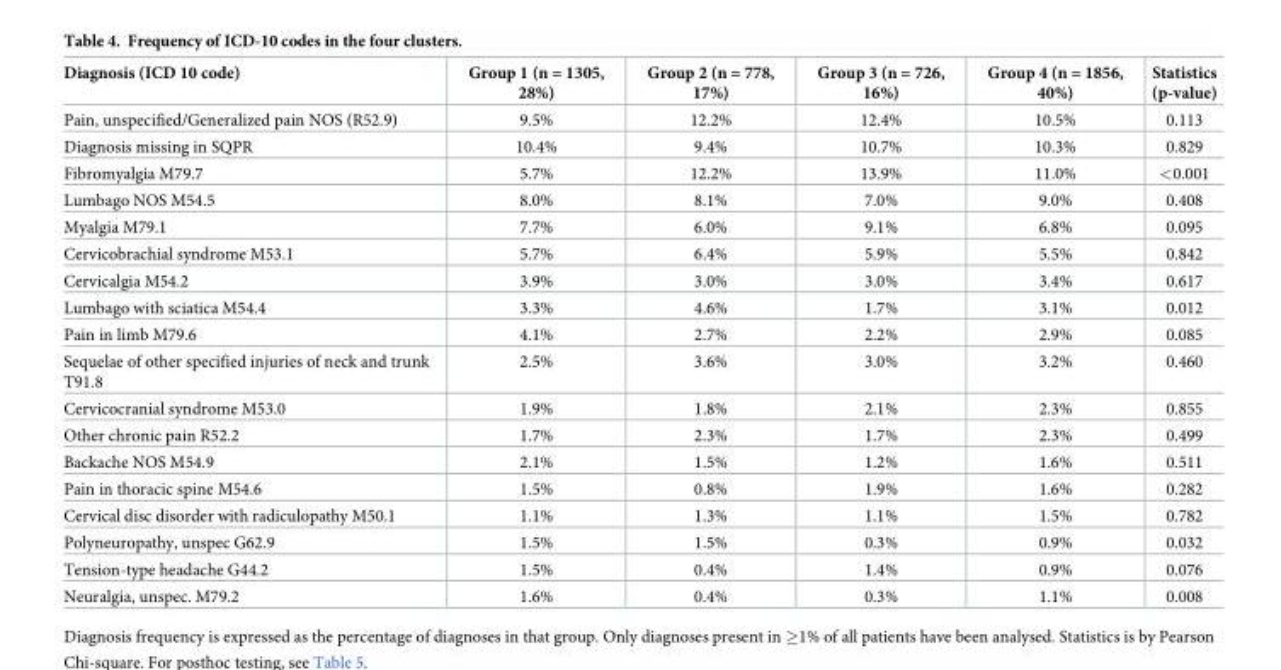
<table><thead><tr><td>Diagnosis (ICD 10 code)</td><td>Group 1 (n = 1305, 28%)</td><td>Group 2 (n = 778, 17%)</td><td>Group 3 (n = 726, 16%)</td><td>Group 4 (n = 1856, 40%)</td><td>Statistics (p-value)</td></tr></thead><tbody><tr><td>Pain, unspecified/Generalized pain NOS (R52.9)</td><td>9.5%</td><td>12.2%</td><td>12.4%</td><td>10.5%</td><td>0.113</td></tr><tr><td>Diagnosis missing in SQPR</td><td>10.4%</td><td>9.4%</td><td>10.7%</td><td>10.3%</td><td>0.829</td></tr><tr><td>Fibromyalgia M79.7</td><td>5.7%</td><td>12.2%</td><td>13.9%</td><td>11.0%</td><td>&lt;0.001</td></tr><tr><td>Lumbago NOS M54.5</td><td>8.0%</td><td>8.1%</td><td>7.0%</td><td>9.0%</td><td>0.408</td></tr><tr><td>Myalgia M79.1</td><td>7.7%</td><td>6.0%</td><td>9.1%</td><td>6.8%</td><td>0.095</td></tr><tr><td>Cervicobrachial syndrome M53.1</td><td>5.7%</td><td>6.4%</td><td>5.9%</td><td>5.5%</td><td>0.842</td></tr><tr><td>Cervicalgia M54.2</td><td>3.9%</td><td>3.0%</td><td>3.0%</td><td>3.4%</td><td>0.617</td></tr><tr><td>Lumbago with sciatica M54.4</td><td>3.3%</td><td>4.6%</td><td>1.7%</td><td>3.1%</td><td>0.012</td></tr><tr><td>Pain in limb M79.6</td><td>4.1%</td><td>2.7%</td><td>2.2%</td><td>2.9%</td><td>0.085</td></tr><tr><td>Sequelae of other specified injuries of neck and trunk T91.8</td><td>2.5%</td><td>3.6%</td><td>3.0%</td><td>3.2%</td><td>0.460</td></tr><tr><td>Cervicocranial syndrome M53.0</td><td>1.9%</td><td>1.8%</td><td>2.1%</td><td>2.3%</td><td>0.855</td></tr><tr><td>Other chronic pain R52.2</td><td>1.7%</td><td>2.3%</td><td>1.7%</td><td>2.3%</td><td>0.499</td></tr><tr><td>Backache NOS M54.9</td><td>2.1%</td><td>1.5%</td><td>1.2%</td><td>1.6%</td><td>0.511</td></tr><tr><td>Pain in thoracic spine M54.6</td><td>1.5%</td><td>0.8%</td><td>1.9%</td><td>1.6%</td><td>0.282</td></tr><tr><td>Cervical disc disorder with radiculopathy M50.1</td><td>1.1%</td><td>1.3%</td><td>1.1%</td><td>1.5%</td><td>0.782</td></tr><tr><td>Polyneuropathy, unspec G62.9</td><td>1.5%</td><td>1.5%</td><td>0.3%</td><td>0.9%</td><td>0.032</td></tr><tr><td>Tension-type headache G44.2</td><td>1.5%</td><td>0.4%</td><td>1.4%</td><td>0.9%</td><td>0.076</td></tr><tr><td>Neuralgia, unspec. M79.2</td><td>1.6%</td><td>0.4%</td><td>0.3%</td><td>1.1%</td><td>0.008</td></tr></tbody></table>